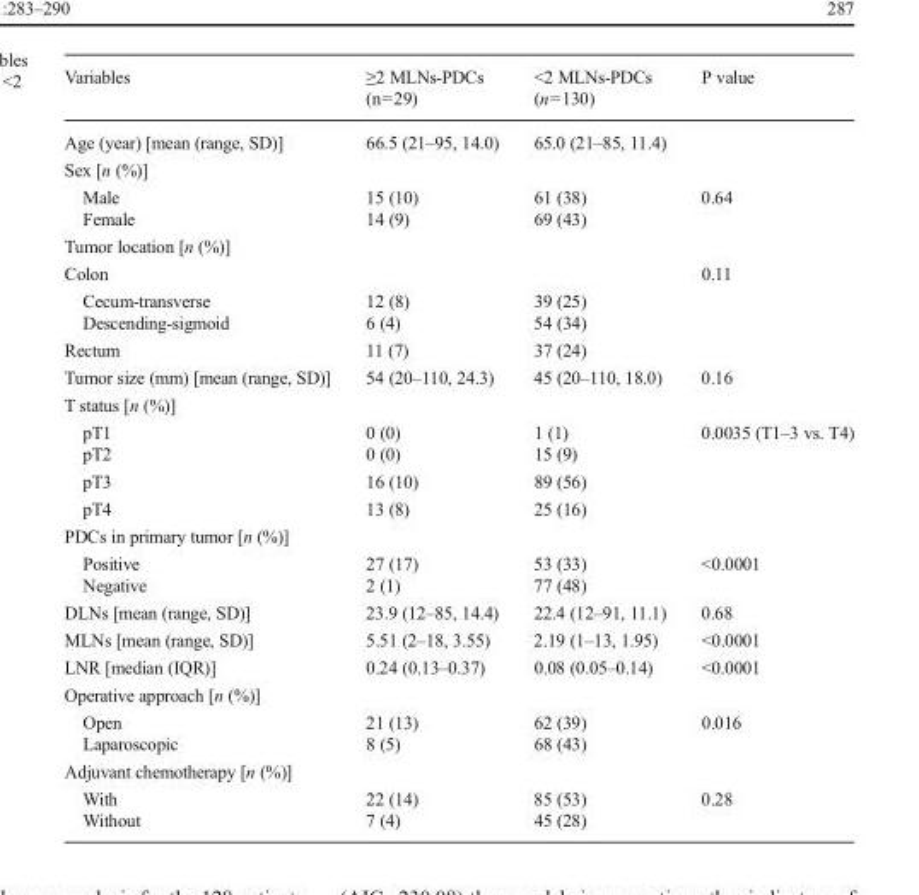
<table><thead><tr><td>Variables</td><td>≥2 MLNs-PDCs (n=29)</td><td>&lt;2 MLNs-PDCs (n=130)</td><td>P value</td></tr></thead><tbody><tr><td>Age (year) [mean (range, SD)]</td><td>66.5 (21–95, 14.0)</td><td>65.0 (21–85, 11.4)</td><td></td></tr><tr><td colspan="4">Sex [n (%)]</td></tr><tr><td>Male</td><td>15 (10)</td><td>61 (38)</td><td rowspan="2">0.64</td></tr><tr><td>Female</td><td>14 (9)</td><td>69 (43)</td></tr><tr><td colspan="4">Tumor location [n (%)]</td></tr><tr><td>Colon</td><td></td><td></td><td>0.11</td></tr><tr><td>Cecum-transverse</td><td>12 (8)</td><td>39 (25)</td><td rowspan="3"></td></tr><tr><td>Descending-sigmoid</td><td>6 (4)</td><td>54 (34)</td></tr><tr><td>Rectum</td><td>11 (7)</td><td>37 (24)</td></tr><tr><td>Tumor size (mm) [mean (range, SD)]</td><td>54 (20–110, 24.3)</td><td>45 (20–110, 18.0)</td><td>0.16</td></tr><tr><td colspan="4">T status [n (%)]</td></tr><tr><td>pT1</td><td>0 (0)</td><td>1 (1)</td><td rowspan="4">0.0035 (T1–3 vs. T4)</td></tr><tr><td>pT2</td><td>0 (0)</td><td>15 (9)</td></tr><tr><td>pT3</td><td>16 (10)</td><td>89 (56)</td></tr><tr><td>pT4</td><td>13 (8)</td><td>25 (16)</td></tr><tr><td colspan="4">PDCs in primary tumor [n (%)]</td></tr><tr><td>Positive</td><td>27 (17)</td><td>53 (33)</td><td rowspan="2">&lt;0.0001</td></tr><tr><td>Negative</td><td>2 (1)</td><td>77 (48)</td></tr><tr><td>DLNs [mean (range, SD)]</td><td>23.9 (12–85, 14.4)</td><td>22.4 (12–91, 11.1)</td><td>0.68</td></tr><tr><td>MLNs [mean (range, SD)]</td><td>5.51 (2–18, 3.55)</td><td>2.19 (1–13, 1.95)</td><td>&lt;0.0001</td></tr><tr><td>LNR [median (IQR)]</td><td>0.24 (0.13–0.37)</td><td>0.08 (0.05–0.14)</td><td>&lt;0.0001</td></tr><tr><td colspan="4">Operative approach [n (%)]</td></tr><tr><td>Open</td><td>21 (13)</td><td>62 (39)</td><td rowspan="2">0.016</td></tr><tr><td>Laparoscopic</td><td>8 (5)</td><td>68 (43)</td></tr><tr><td colspan="4">Adjuvant chemotherapy [n (%)]</td></tr><tr><td>With</td><td>22 (14)</td><td>85 (53)</td><td rowspan="2">0.28</td></tr><tr><td>Without</td><td>7 (4)</td><td>45 (28)</td></tr></tbody></table>